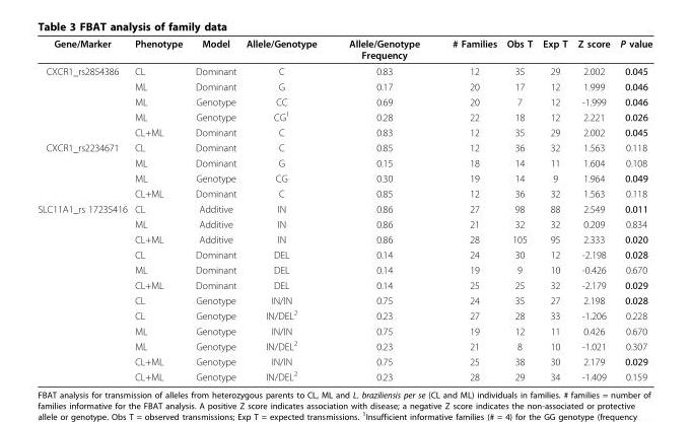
<table><thead><tr><td>Gene/Marker</td><td>Phenotype</td><td>Model</td><td>Allele/Genotype</td><td>Allele/Genotype Frequency</td><td># Families</td><td>Obs T</td><td>Exp T</td><td>Z score</td><td>P value</td></tr></thead><tbody><tr><td rowspan="5">CXCR1_rs2854386</td><td>CL</td><td>Dominant</td><td>C</td><td>0.83</td><td>12</td><td>35</td><td>29</td><td>2.002</td><td>0.045</td></tr><tr><td>ML</td><td>Dominant</td><td>G</td><td>0.17</td><td>20</td><td>17</td><td>12</td><td>1.999</td><td>0.046</td></tr><tr><td>ML</td><td>Genotype</td><td>CC</td><td>0.69</td><td>20</td><td>7</td><td>12</td><td>-1.999</td><td>0.046</td></tr><tr><td>ML</td><td>Genotype</td><td>CG<sup>1</sup></td><td>0.28</td><td>22</td><td>18</td><td>12</td><td>2.221</td><td>0.026</td></tr><tr><td>CL+ML</td><td>Dominant</td><td>C</td><td>0.83</td><td>12</td><td>35</td><td>29</td><td>2.002</td><td>0.045</td></tr><tr><td rowspan="4">CXCR1_rs2234671</td><td>CL</td><td>Dominant</td><td>C</td><td>0.85</td><td>12</td><td>36</td><td>32</td><td>1.563</td><td>0.118</td></tr><tr><td>ML</td><td>Dominant</td><td>G</td><td>0.15</td><td>18</td><td>14</td><td>11</td><td>1.604</td><td>0.108</td></tr><tr><td>ML</td><td>Genotype</td><td>CG</td><td>0.30</td><td>19</td><td>14</td><td>9</td><td>1.964</td><td>0.049</td></tr><tr><td>CL+ML</td><td>Dominant</td><td>C</td><td>0.85</td><td>12</td><td>36</td><td>32</td><td>1.563</td><td>0.118</td></tr><tr><td rowspan="12">SLC11A1_rs 17235416</td><td>CL</td><td>Additive</td><td>IN</td><td>0.86</td><td>27</td><td>98</td><td>88</td><td>2.549</td><td>0.011</td></tr><tr><td>ML</td><td>Additive</td><td>IN</td><td>0.86</td><td>21</td><td>32</td><td>32</td><td>0.209</td><td>0.834</td></tr><tr><td>CL+ML</td><td>Additive</td><td>IN</td><td>0.86</td><td>28</td><td>105</td><td>95</td><td>2.333</td><td>0.020</td></tr><tr><td>CL</td><td>Dominant</td><td>DEL</td><td>0.14</td><td>24</td><td>30</td><td>12</td><td>-2.198</td><td>0.028</td></tr><tr><td>ML</td><td>Dominant</td><td>DEL</td><td>0.14</td><td>19</td><td>9</td><td>10</td><td>-0.426</td><td>0.670</td></tr><tr><td>CL+ML</td><td>Dominant</td><td>DEL</td><td>0.14</td><td>25</td><td>25</td><td>32</td><td>-2.179</td><td>0.029</td></tr><tr><td>CL</td><td>Genotype</td><td>IN/IN</td><td>0.75</td><td>24</td><td>35</td><td>27</td><td>2.198</td><td>0.028</td></tr><tr><td>CL</td><td>Genotype</td><td>IN/DEL<sup>2</sup></td><td>0.23</td><td>27</td><td>28</td><td>33</td><td>-1.206</td><td>0.228</td></tr><tr><td>ML</td><td>Genotype</td><td>IN/IN</td><td>0.75</td><td>19</td><td>12</td><td>11</td><td>0.426</td><td>0.670</td></tr><tr><td>ML</td><td>Genotype</td><td>IN/DEL<sup>2</sup></td><td>0.23</td><td>21</td><td>8</td><td>10</td><td>-1.021</td><td>0.307</td></tr><tr><td>CL+ML</td><td>Genotype</td><td>IN/IN</td><td>0.75</td><td>25</td><td>38</td><td>30</td><td>2.179</td><td>0.029</td></tr><tr><td>CL+ML</td><td>Genotype</td><td>IN/DEL<sup>2</sup></td><td>0.23</td><td>28</td><td>29</td><td>34</td><td>-1.409</td><td>0.159</td></tr></tbody></table>